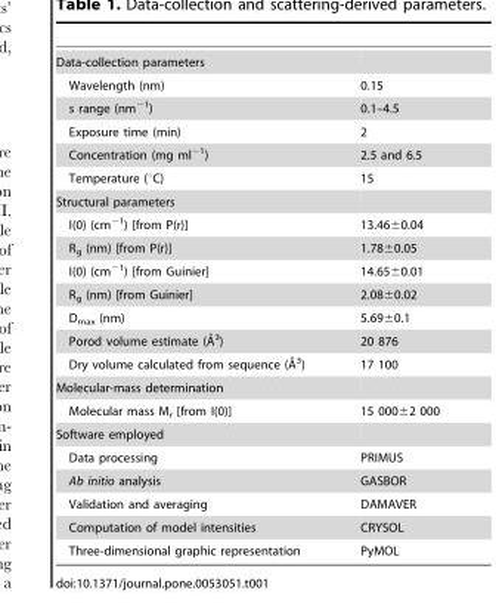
<table><tbody><tr><td colspan="2">Data-collection parameters</td></tr><tr><td>Wavelength (nm)</td><td>0.15</td></tr><tr><td>s range (nm<sup>−1</sup>)</td><td>0.1–4.5</td></tr><tr><td>Exposure time (min)</td><td>2</td></tr><tr><td>Concentration (mg ml<sup>−1</sup>)</td><td>2.5 and 6.5</td></tr><tr><td>Temperature (°C)</td><td>15</td></tr><tr><td colspan="2">Structural parameters</td></tr><tr><td>I(0) (cm<sup>−1</sup>) [from P(r)]</td><td>13.46±0.04</td></tr><tr><td>R<sub>g</sub> (nm) [from P(r)]</td><td>1.78±0.05</td></tr><tr><td>I(0) (cm<sup>−1</sup>) [from Guinier]</td><td>14.65±0.01</td></tr><tr><td>R<sub>g</sub> (nm) [from Guinier]</td><td>2.08±0.02</td></tr><tr><td>D<sub>max</sub> (nm)</td><td>5.69±0.1</td></tr><tr><td>Porod volume estimate (A˚3)</td><td>20 876</td></tr><tr><td>Dry volume calculated from sequence (A˚ 3)</td><td>17 100</td></tr><tr><td colspan="2">Molecular-mass determination</td></tr><tr><td>Molecular mass M<sub>r</sub> [from I(0)]</td><td>15 000±2 000</td></tr><tr><td colspan="2">Software employed</td></tr><tr><td>Data processing</td><td>PRIMUS</td></tr><tr><td>Ab initio analysis</td><td>GASBOR</td></tr><tr><td>Validation and averaging</td><td>DAMAVER</td></tr><tr><td>Computation of model intensities</td><td>CRYSOL</td></tr><tr><td>Three-dimensional graphic representation</td><td>PyMOL</td></tr></tbody></table>